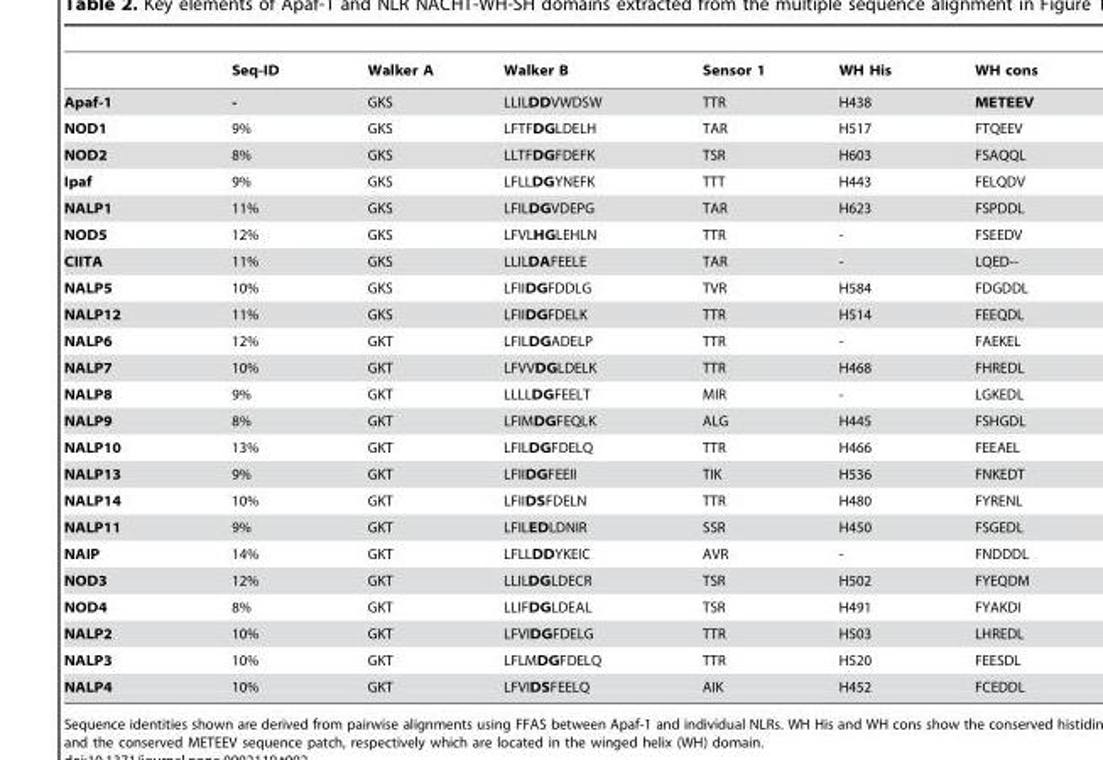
<table><thead><tr><td></td><td>Seq-ID</td><td>Walker A</td><td>Walker B</td><td>Sensor 1</td><td>WH His</td><td>WH cons</td></tr></thead><tbody><tr><td>Apaf-1</td><td>-</td><td>GKS</td><td>LLILDDVWDSW</td><td>TTR</td><td>H438</td><td>METEEV</td></tr><tr><td>NOD1</td><td>9%</td><td>GKS</td><td>LFTFDGLDELH</td><td>TAR</td><td>H517</td><td>FTQEEV</td></tr><tr><td>NOD2</td><td>8%</td><td>GKS</td><td>LLTFDGFDEFK</td><td>TSR</td><td>H603</td><td>FSAQQL</td></tr><tr><td>Ipaf</td><td>9%</td><td>GKS</td><td>LFLLDGYNEFK</td><td>TTT</td><td>H443</td><td>FELQDV</td></tr><tr><td>NALP1</td><td>11%</td><td>GKS</td><td>LFILDGVDEPG</td><td>TAR</td><td>H623</td><td>FSPDDL</td></tr><tr><td>NOD5</td><td>12%</td><td>GKS</td><td>LFVLHGLEHLN</td><td>TTR</td><td>-</td><td>FSEEDV</td></tr><tr><td>CIITA</td><td>11%</td><td>GKS</td><td>LLILDAFEELE</td><td>TAR</td><td>-</td><td>LQED--</td></tr><tr><td>NALP5</td><td>10%</td><td>GKS</td><td>LFIIDGFDDLG</td><td>TVR</td><td>H584</td><td>FDGDDL</td></tr><tr><td>NALP12</td><td>11%</td><td>GKS</td><td>LFIIDGFDELK</td><td>TTR</td><td>H514</td><td>FEEQDL</td></tr><tr><td>NALP6</td><td>12%</td><td>GKT</td><td>LFILDGADELP</td><td>TTR</td><td>-</td><td>FAEKEL</td></tr><tr><td>NALP7</td><td>10%</td><td>GKT</td><td>LFVVDGLDELK</td><td>TTR</td><td>H468</td><td>FHREDL</td></tr><tr><td>NALP8</td><td>9%</td><td>GKT</td><td>LLLLDGFEELT</td><td>MIR</td><td>-</td><td>LGKEDL</td></tr><tr><td>NALP9</td><td>8%</td><td>GKT</td><td>LFIMDGFEQLK</td><td>ALG</td><td>H445</td><td>FSHGDL</td></tr><tr><td>NALP10</td><td>13%</td><td>GKT</td><td>LFILDGFDELQ</td><td>TTR</td><td>H466</td><td>FEEAEL</td></tr><tr><td>NALP13</td><td>9%</td><td>GKT</td><td>LFIIDGFEEII</td><td>TIK</td><td>H536</td><td>FNKEDT</td></tr><tr><td>NALP14</td><td>10%</td><td>GKT</td><td>LFIIDSFDELN</td><td>TTR</td><td>H480</td><td>FYRENL</td></tr><tr><td>NALP11</td><td>9%</td><td>GKT</td><td>LFILEDLDNIR</td><td>SSR</td><td>H450</td><td>FSGEDL</td></tr><tr><td>NAIP</td><td>14%</td><td>GKT</td><td>LFLLDDYKEIC</td><td>AVR</td><td>-</td><td>FNDDDL</td></tr><tr><td>NOD3</td><td>12%</td><td>GKT</td><td>LLILDGLDECR</td><td>TSR</td><td>H502</td><td>FYEQDM</td></tr><tr><td>NOD4</td><td>8%</td><td>GKT</td><td>LLIFDGLDEAL</td><td>TSR</td><td>H491</td><td>FYAKDI</td></tr><tr><td>NALP2</td><td>10%</td><td>GKT</td><td>LFVIDGFDELG</td><td>TTR</td><td>H503</td><td>LHREDL</td></tr><tr><td>NALP3</td><td>10%</td><td>GKT</td><td>LFLMDGFDELQ</td><td>TTR</td><td>H520</td><td>FEESDL</td></tr><tr><td>NALP4</td><td>10%</td><td>GKT</td><td>LFVIDSFEELQ</td><td>AIK</td><td>H452</td><td>FCEDDL</td></tr></tbody></table>